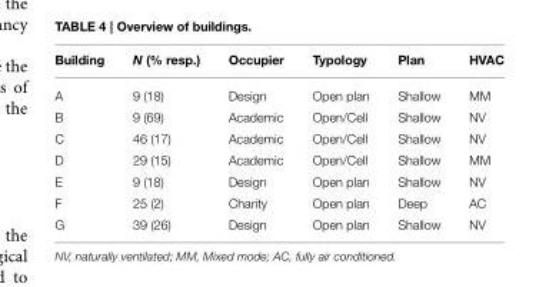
<table><thead><tr><td>Building</td><td>N (% resp.)</td><td>Occupier</td><td>Typology</td><td>Plan</td><td>HVAC</td></tr></thead><tbody><tr><td>A</td><td>9 (18)</td><td>Design</td><td>Open plan</td><td>Shallow</td><td>MM</td></tr><tr><td>B</td><td>9 (69)</td><td>Academic</td><td>Open/Cell</td><td>Shallow</td><td>NV</td></tr><tr><td>C</td><td>46 (17)</td><td>Academic</td><td>Open/Cell</td><td>Shallow</td><td>NV</td></tr><tr><td>D</td><td>29 (15)</td><td>Academic</td><td>Open/Cell</td><td>Shallow</td><td>MM</td></tr><tr><td>E</td><td>9 (18)</td><td>Design</td><td>Open plan</td><td>Shallow</td><td>NV</td></tr><tr><td>F</td><td>25 (2)</td><td>Charity</td><td>Open plan</td><td>Deep</td><td>AC</td></tr><tr><td>G</td><td>39 (26)</td><td>Design</td><td>Open plan</td><td>Shallow</td><td>NV</td></tr></tbody></table>